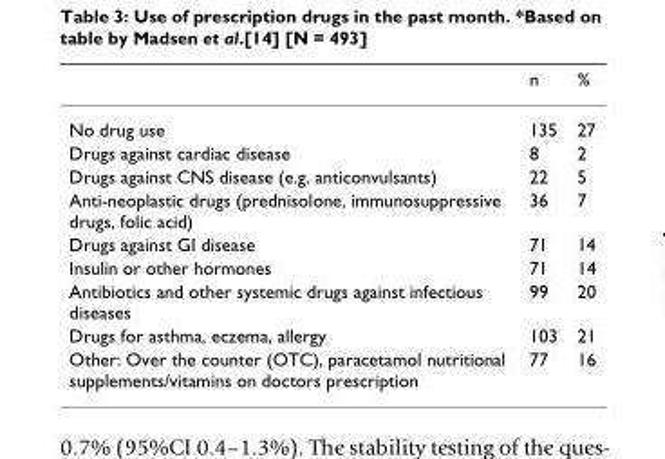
<table><thead><tr><td></td><td>n</td><td>%</td></tr></thead><tbody><tr><td>No drug use</td><td>135</td><td>27</td></tr><tr><td>Drugs against cardiac disease</td><td>8</td><td>2</td></tr><tr><td>Drugs against CNS disease (e.g. anticonvulsants)</td><td>22</td><td>5</td></tr><tr><td>Anti-neoplastic drugs (prednisolone, immunosuppressive drugs, folic acid)</td><td>36</td><td>7</td></tr><tr><td>Drugs against GI disease</td><td>71</td><td>14</td></tr><tr><td>Insulin or other hormones</td><td>71</td><td>14</td></tr><tr><td>Antibiotics and other systemic drugs against infectious diseases</td><td>99</td><td>20</td></tr><tr><td>Drugs for asthma, eczema, allergy</td><td>103</td><td>21</td></tr><tr><td>Other: Over the counter (OTC), paracetamol nutritional supplements/vitamins on doctors prescription</td><td>77</td><td>16</td></tr></tbody></table>